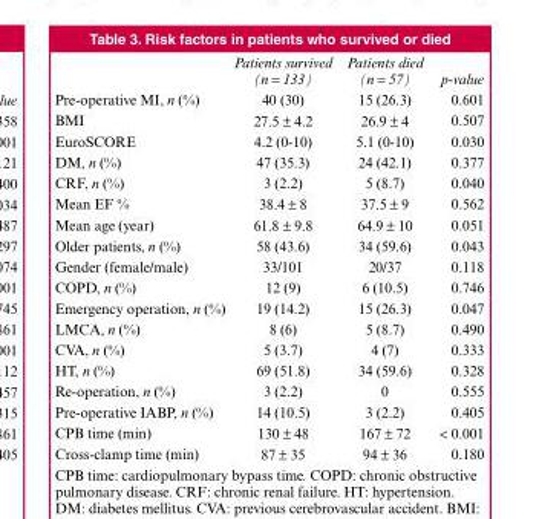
<table><thead><tr><td></td><td>Patients survived (n = 133)</td><td>Patients died (n = 57)</td><td>p-value</td></tr></thead><tbody><tr><td>Pre-operative MI, n (%)</td><td>40 (30)</td><td>15 (26.3)</td><td>0.601</td></tr><tr><td>BMI</td><td>27.5 ± 4.2</td><td>26.9 ± 4</td><td>0.507</td></tr><tr><td>EuroSCORE</td><td>4.2 (0-10)</td><td>5.1 (0-10)</td><td>0.030</td></tr><tr><td>DM, n (%)</td><td>47 (35.3)</td><td>24 (42.1)</td><td>0.377</td></tr><tr><td>CRF, n (%)</td><td>3 (2.2)</td><td>5 (8.7)</td><td>0.040</td></tr><tr><td>Mean EF %</td><td>38.4 ± 8</td><td>37.5 ± 9</td><td>0.562</td></tr><tr><td>Mean age (year)</td><td>61.8 ± 9.8</td><td>64.9 ± 10</td><td>0.051</td></tr><tr><td>Older patients, n (%)</td><td>58 (43.6)</td><td>34 (59.6)</td><td>0.043</td></tr><tr><td>Gender (female/male)</td><td>33/101</td><td>20/37</td><td>0.118</td></tr><tr><td>COPD, n (%)</td><td>12 (9)</td><td>6 (10.5)</td><td>0.746</td></tr><tr><td>Emergency operation, n (%)</td><td>19 (14.2)</td><td>15 (26.3)</td><td>0.047</td></tr><tr><td>LMCA, n (%)</td><td>8 (6)</td><td>5 (8.7)</td><td>0.490</td></tr><tr><td>CVA, n (%)</td><td>5 (3.7)</td><td>4 (7)</td><td>0.333</td></tr><tr><td>HT, n (%)</td><td>69 (51.8)</td><td>34 (59.6)</td><td>0.328</td></tr><tr><td>Re-operation, n (%)</td><td>3 (2.2)</td><td>0</td><td>0.555</td></tr><tr><td>Pre-operative IABP, n (%)</td><td>14 (10.5)</td><td>3 (2.2)</td><td>0.405</td></tr><tr><td>CPB time (min)</td><td>130 ± 48</td><td>167 ± 72</td><td>&lt; 0.001</td></tr><tr><td>Cross-clamp time (min)</td><td>87 ± 35</td><td>94 ± 36</td><td>0.180</td></tr></tbody></table>